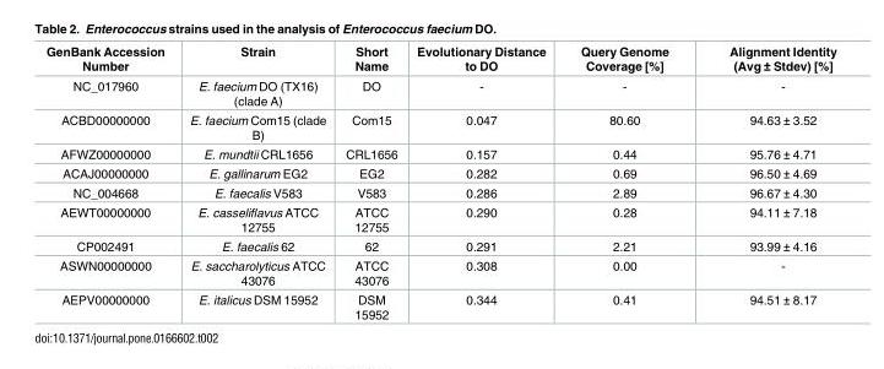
<table><thead><tr><td>GenBank Accession Number</td><td>Strain</td><td>Short Name</td><td>Evolutionary Distance to DO</td><td>Query Genome Coverage [%]</td><td>Alignment Identity (Avg ± Stdev) [%]</td></tr></thead><tbody><tr><td>NC_017960</td><td>E. faecium DO (TX16) (clade A)</td><td>DO</td><td>-</td><td>-</td><td>-</td></tr><tr><td>ACBD00000000</td><td>E. faecium Com15 (clade B)</td><td>Com15</td><td>0.047</td><td>80.60</td><td>94.63 ± 3.52</td></tr><tr><td>AFWZ00000000</td><td>E. mundtii CRL1656</td><td>CRL1656</td><td>0.157</td><td>0.44</td><td>95.76 ± 4.71</td></tr><tr><td>ACAJ00000000</td><td>E. gallinarum EG2</td><td>EG2</td><td>0.282</td><td>0.69</td><td>96.50 ± 4.69</td></tr><tr><td>NC_004668</td><td>E. faecalis V583</td><td>V583</td><td>0.286</td><td>2.89</td><td>96.67 ± 4.30</td></tr><tr><td>AEWT00000000</td><td>E. casseliflavus ATCC 12755</td><td>ATCC 12755</td><td>0.290</td><td>0.28</td><td>94.11 ± 7.18</td></tr><tr><td>CP002491</td><td>E. faecalis 62</td><td>62</td><td>0.291</td><td>2.21</td><td>93.99 ± 4.16</td></tr><tr><td>ASWN00000000</td><td>E. saccharolyticus ATCC 43076</td><td>ATCC 43076</td><td>0.308</td><td>0.00</td><td>-</td></tr><tr><td>AEPV00000000</td><td>E. italicus DSM 15952</td><td>DSM 15952</td><td>0.344</td><td>0.41</td><td>94.51 ± 8.17</td></tr></tbody></table>